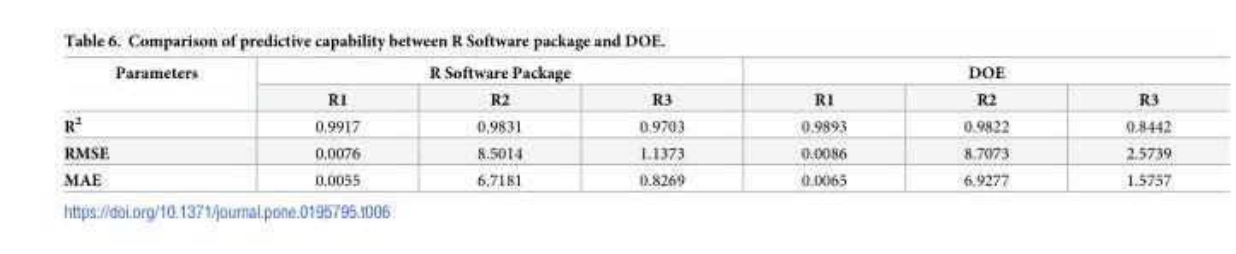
<table><thead><tr><td rowspan="2">Parameters</td><td colspan="3">R Software Package</td><td colspan="3">DOE</td></tr><tr><td>R1</td><td>R2</td><td>R3</td><td>R1</td><td>R2</td><td>R3</td></tr></thead><tbody><tr><td>R<sup>2</sup></td><td>0.9917</td><td>0.9831</td><td>0.9703</td><td>0.9893</td><td>0.9822</td><td>0.8442</td></tr><tr><td>RMSE</td><td>0.0076</td><td>8.5014</td><td>1.1373</td><td>0.0086</td><td>8.7073</td><td>2.5739</td></tr><tr><td>MAE</td><td>0.0055</td><td>6.7181</td><td>0.8269</td><td>0.0065</td><td>6.9277</td><td>1.5757</td></tr></tbody></table>